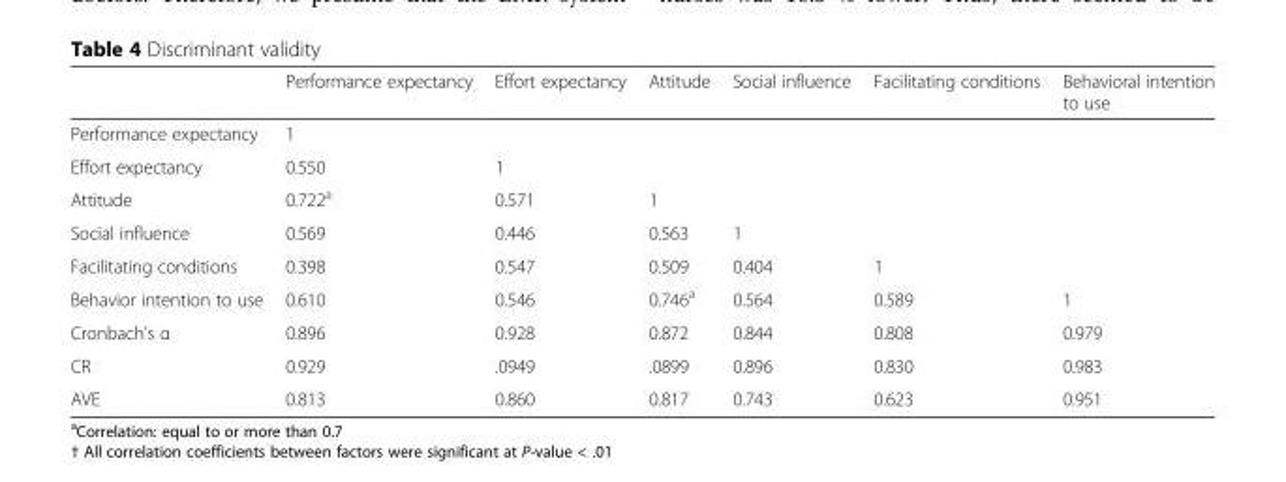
<table><thead><tr><td></td><td>Performance expectancy</td><td>Effort expectancy</td><td>Attitude</td><td>Social influence</td><td>Facilitating conditions</td><td>Behavioral intention to use</td></tr></thead><tbody><tr><td>Performance expectancy</td><td>1</td><td></td><td></td><td></td><td></td><td></td></tr><tr><td>Effort expectancy</td><td>0.550</td><td>1</td><td></td><td></td><td></td><td></td></tr><tr><td>Attitude</td><td>0.722<sup>a</sup></td><td>0.571</td><td>1</td><td></td><td></td><td></td></tr><tr><td>Social influence</td><td>0.569</td><td>0.446</td><td>0.563</td><td>1</td><td></td><td></td></tr><tr><td>Facilitating conditions</td><td>0.398</td><td>0.547</td><td>0.509</td><td>0.404</td><td>1</td><td></td></tr><tr><td>Behavior intention to use</td><td>0.610</td><td>0.546</td><td>0.746<sup>a</sup></td><td>0.564</td><td>0.589</td><td>1</td></tr><tr><td>Cronbach’s α</td><td>0.896</td><td>0.928</td><td>0.872</td><td>0.844</td><td>0.808</td><td>0.979</td></tr><tr><td>CR</td><td>0.929</td><td>.0949</td><td>.0899</td><td>0.896</td><td>0.830</td><td>0.983</td></tr><tr><td>AVE</td><td>0.813</td><td>0.860</td><td>0.817</td><td>0.743</td><td>0.623</td><td>0.951</td></tr></tbody></table>